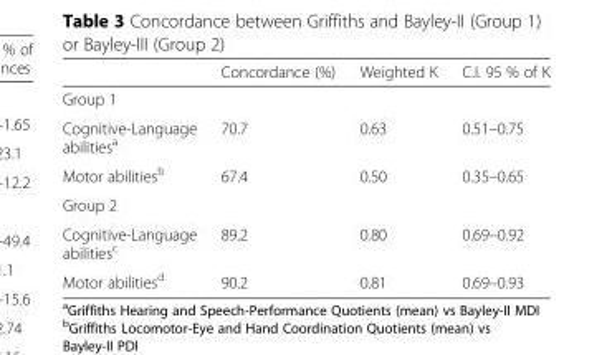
<table><thead><tr><td></td><td>Concordance (%)</td><td>Weighted K</td><td>C.I. 95 % of K</td></tr></thead><tbody><tr><td colspan="4">Group 1</td></tr><tr><td>Cognitive-Language abilities<sup>a</sup></td><td>70.7</td><td>0.63</td><td>0.51–0.75</td></tr><tr><td>Motor abilities<sup>b</sup></td><td>67.4</td><td>0.50</td><td>0.35–0.65</td></tr><tr><td colspan="4">Group 2</td></tr><tr><td>Cognitive-Language abilities<sup>c</sup></td><td>89.2</td><td>0.80</td><td>0.69–0.92</td></tr><tr><td>Motor abilities<sup>d</sup></td><td>90.2</td><td>0.81</td><td>0.69–0.93</td></tr></tbody></table>